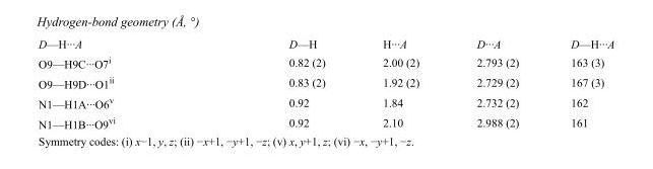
<table><tbody><tr><td>D—H···A</td><td>D—H</td><td>H···A</td><td>D···A</td><td>D—H···A</td></tr><tr><td>O9—H9C···O7<sup>i</sup></td><td>0.82 (2)</td><td>2.00 (2)</td><td>2.793 (2)</td><td>163 (3)</td></tr><tr><td>O9—H9D···O1<sup>ii</sup></td><td>0.83 (2)</td><td>1.92 (2)</td><td>2.729 (2)</td><td>167 (3)</td></tr><tr><td>N1—H1A···O6<sup>v</sup></td><td>0.92</td><td>1.84</td><td>2.732 (2)</td><td>162</td></tr><tr><td>N1—H1B···O9<sup>vi</sup></td><td>0.92</td><td>2.10</td><td>2.988 (2)</td><td>161</td></tr></tbody></table>